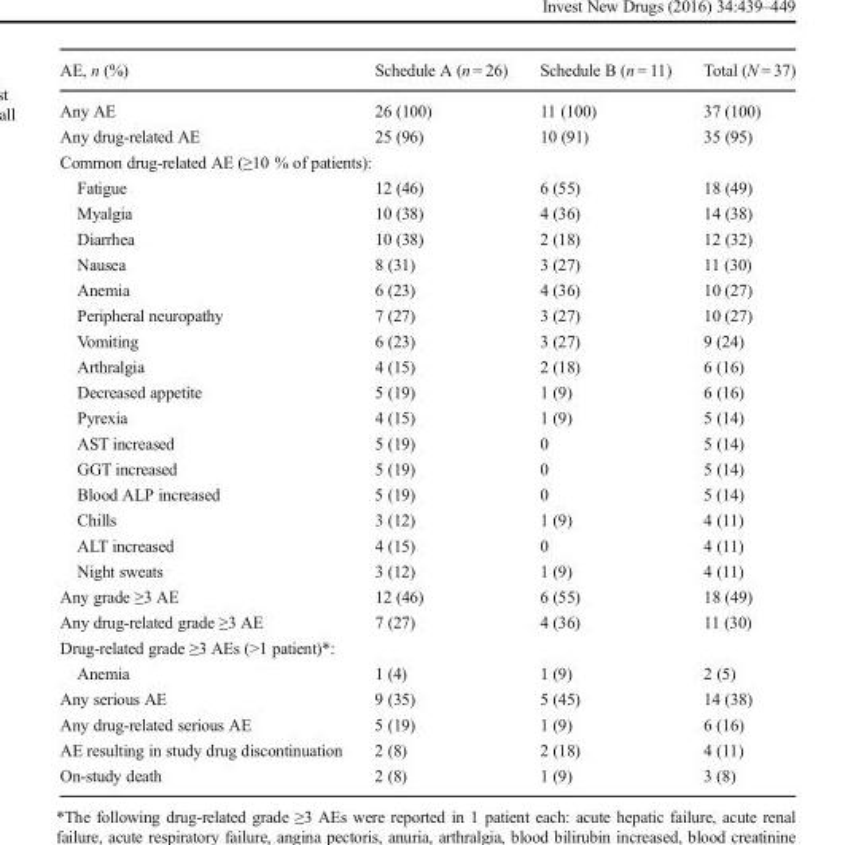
<table><thead><tr><td>AE, n (%)</td><td>Schedule A (n = 26)</td><td>Schedule B (n = 11)</td><td>Total (N = 37)</td></tr></thead><tbody><tr><td>Any AE</td><td>26 (100)</td><td>11 (100)</td><td>37 (100)</td></tr><tr><td>Any drug-related AE</td><td>25 (96)</td><td>10 (91)</td><td>35 (95)</td></tr><tr><td colspan="4">Common drug-related AE (≥10 % of patients):</td></tr><tr><td>Fatigue</td><td>12 (46)</td><td>6 (55)</td><td>18 (49)</td></tr><tr><td>Myalgia</td><td>10 (38)</td><td>4 (36)</td><td>14 (38)</td></tr><tr><td>Diarrhea</td><td>10 (38)</td><td>2 (18)</td><td>12 (32)</td></tr><tr><td>Nausea</td><td>8 (31)</td><td>3 (27)</td><td>11 (30)</td></tr><tr><td>Anemia</td><td>6 (23)</td><td>4 (36)</td><td>10 (27)</td></tr><tr><td>Peripheral neuropathy</td><td>7 (27)</td><td>3 (27)</td><td>10 (27)</td></tr><tr><td>Vomiting</td><td>6 (23)</td><td>3 (27)</td><td>9 (24)</td></tr><tr><td>Arthralgia</td><td>4 (15)</td><td>2 (18)</td><td>6 (16)</td></tr><tr><td>Decreased appetite</td><td>5 (19)</td><td>1 (9)</td><td>6 (16)</td></tr><tr><td>Pyrexia</td><td>4 (15)</td><td>1 (9)</td><td>5 (14)</td></tr><tr><td>AST increased</td><td>5 (19)</td><td>0</td><td>5 (14)</td></tr><tr><td>GGT increased</td><td>5 (19)</td><td>0</td><td>5 (14)</td></tr><tr><td>Blood ALP increased</td><td>5 (19)</td><td>0</td><td>5 (14)</td></tr><tr><td>Chills</td><td>3 (12)</td><td>1 (9)</td><td>4 (11)</td></tr><tr><td>ALT increased</td><td>4 (15)</td><td>0</td><td>4 (11)</td></tr><tr><td>Night sweats</td><td>3 (12)</td><td>1 (9)</td><td>4 (11)</td></tr><tr><td>Any grade ≥3 AE</td><td>12 (46)</td><td>6 (55)</td><td>18 (49)</td></tr><tr><td>Any drug-related grade ≥3 AE</td><td>7 (27)</td><td>4 (36)</td><td>11 (30)</td></tr><tr><td colspan="4">Drug-related grade ≥3 AEs (&gt;1 patient)*:</td></tr><tr><td>Anemia</td><td>1 (4)</td><td>1 (9)</td><td>2 (5)</td></tr><tr><td>Any serious AE</td><td>9 (35)</td><td>5 (45)</td><td>14 (38)</td></tr><tr><td>Any drug-related serious AE</td><td>5 (19)</td><td>1 (9)</td><td>6 (16)</td></tr><tr><td>AE resulting in study drug discontinuation</td><td>2 (8)</td><td>2 (18)</td><td>4 (11)</td></tr><tr><td>On-study death</td><td>2 (8)</td><td>1 (9)</td><td>3 (8)</td></tr></tbody></table>